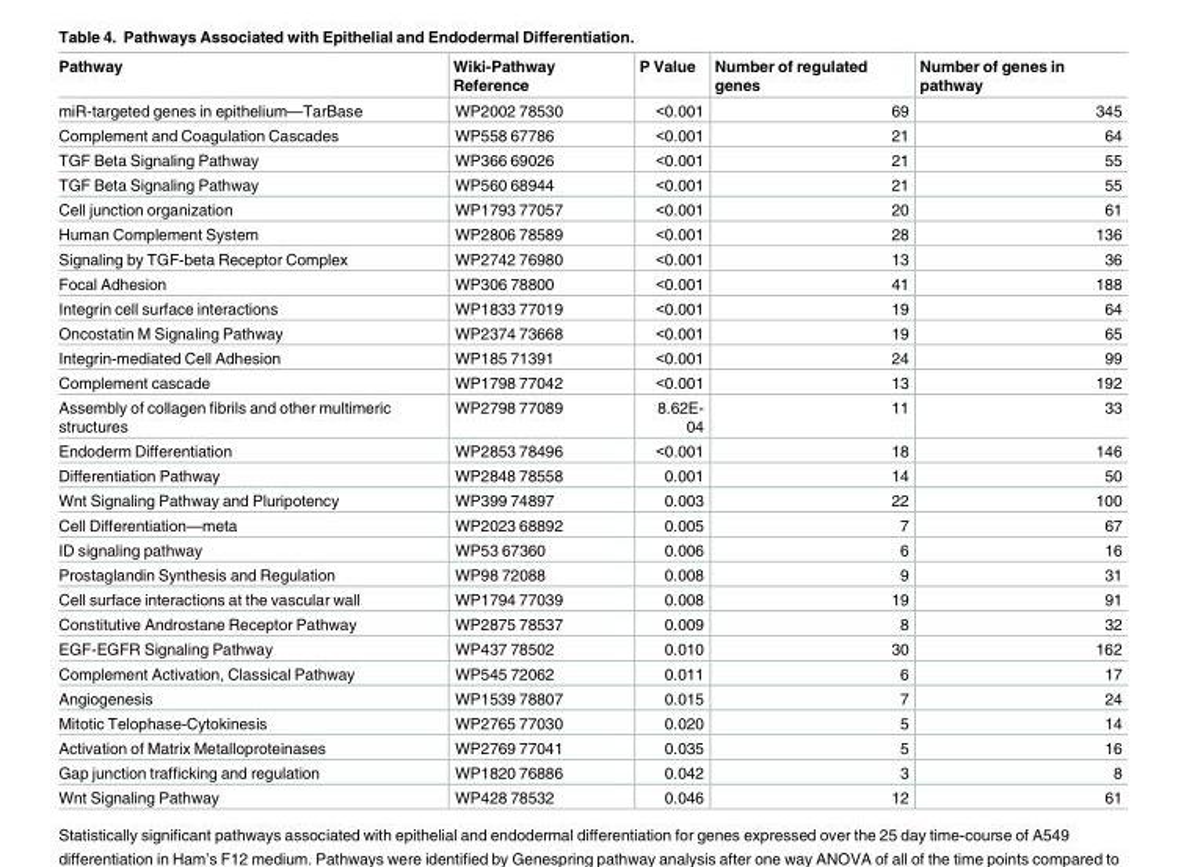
<table><thead><tr><td>Pathway</td><td>Wiki-Pathway Reference</td><td>P Value</td><td>Number of regulated genes</td><td>Number of genes in pathway</td></tr></thead><tbody><tr><td>miR-targeted genes in epithelium—TarBase</td><td>WP2002 78530</td><td>&lt;0.001</td><td>69</td><td>345</td></tr><tr><td>Complement and Coagulation Cascades</td><td>WP558 67786</td><td>&lt;0.001</td><td>21</td><td>64</td></tr><tr><td>TGF Beta Signaling Pathway</td><td>WP366 69026</td><td>&lt;0.001</td><td>21</td><td>55</td></tr><tr><td>TGF Beta Signaling Pathway</td><td>WP560 68944</td><td>&lt;0.001</td><td>21</td><td>55</td></tr><tr><td>Cell junction organization</td><td>WP1793 77057</td><td>&lt;0.001</td><td>20</td><td>61</td></tr><tr><td>Human Complement System</td><td>WP2806 78589</td><td>&lt;0.001</td><td>28</td><td>136</td></tr><tr><td>Signaling by TGF-beta Receptor Complex</td><td>WP2742 76980</td><td>&lt;0.001</td><td>13</td><td>36</td></tr><tr><td>Focal Adhesion</td><td>WP306 78800</td><td>&lt;0.001</td><td>41</td><td>188</td></tr><tr><td>Integrin cell surface interactions</td><td>WP1833 77019</td><td>&lt;0.001</td><td>19</td><td>64</td></tr><tr><td>Oncostatin M Signaling Pathway</td><td>WP2374 73668</td><td>&lt;0.001</td><td>19</td><td>65</td></tr><tr><td>Integrin-mediated Cell Adhesion</td><td>WP185 71391</td><td>&lt;0.001</td><td>24</td><td>99</td></tr><tr><td>Complement cascade</td><td>WP1798 77042</td><td>&lt;0.001</td><td>13</td><td>192</td></tr><tr><td>Assembly of collagen fibrils and other multimeric structures</td><td>WP2798 77089</td><td>8.62E- 04</td><td>11</td><td>33</td></tr><tr><td>Endoderm Differentiation</td><td>WP2853 78496</td><td>&lt;0.001</td><td>18</td><td>146</td></tr><tr><td>Differentiation Pathway</td><td>WP2848 78558</td><td>0.001</td><td>14</td><td>50</td></tr><tr><td>Wnt Signaling Pathway and Pluripotency</td><td>WP399 74897</td><td>0.003</td><td>22</td><td>100</td></tr><tr><td>Cell Differentiation—meta</td><td>WP2023 68892</td><td>0.005</td><td>7</td><td>67</td></tr><tr><td>ID signaling pathway</td><td>WP53 67360</td><td>0.006</td><td>6</td><td>16</td></tr><tr><td>Prostaglandin Synthesis and Regulation</td><td>WP98 72088</td><td>0.008</td><td>9</td><td>31</td></tr><tr><td>Cell surface interactions at the vascular wall</td><td>WP1794 77039</td><td>0.008</td><td>19</td><td>91</td></tr><tr><td>Constitutive Androstane Receptor Pathway</td><td>WP2875 78537</td><td>0.009</td><td>8</td><td>32</td></tr><tr><td>EGF-EGFR Signaling Pathway</td><td>WP437 78502</td><td>0.010</td><td>30</td><td>162</td></tr><tr><td>Complement Activation, Classical Pathway</td><td>WP545 72062</td><td>0.011</td><td>6</td><td>17</td></tr><tr><td>Angiogenesis</td><td>WP1539 78807</td><td>0.015</td><td>7</td><td>24</td></tr><tr><td>Mitotic Telophase-Cytokinesis</td><td>WP2765 77030</td><td>0.020</td><td>5</td><td>14</td></tr><tr><td>Activation of Matrix Metalloproteinases</td><td>WP2769 77041</td><td>0.035</td><td>5</td><td>16</td></tr><tr><td>Gap junction trafficking and regulation</td><td>WP1820 76886</td><td>0.042</td><td>3</td><td>8</td></tr><tr><td>Wnt Signaling Pathway</td><td>WP428 78532</td><td>0.046</td><td>12</td><td>61</td></tr></tbody></table>